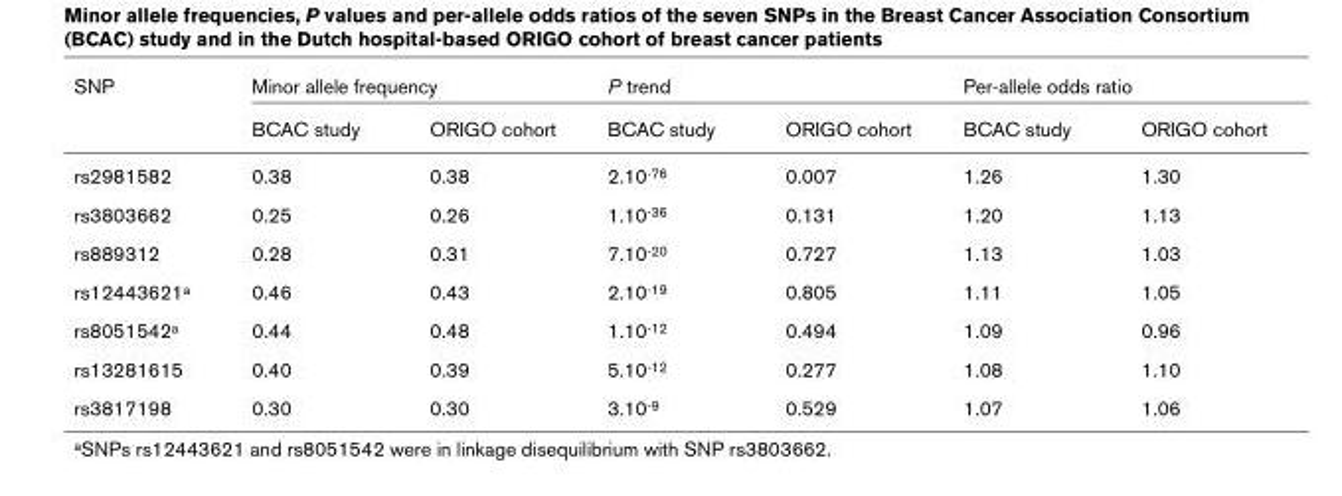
<table><thead><tr><td rowspan="2">SNP</td><td colspan="2">Minor allele frequency</td><td colspan="2">P trend</td><td colspan="2">Per-allele odds ratio</td></tr><tr><td>BCAC study</td><td>ORIGO cohort</td><td>BCAC study</td><td>ORIGO cohort</td><td>BCAC study</td><td>ORIGO cohort</td></tr></thead><tbody><tr><td>rs2981582</td><td>0.38</td><td>0.38</td><td>2.10<sup>-76</sup></td><td>0.007</td><td>1.26</td><td>1.30</td></tr><tr><td>rs3803662</td><td>0.25</td><td>0.26</td><td>1.10<sup>-36</sup></td><td>0.131</td><td>1.20</td><td>1.13</td></tr><tr><td>rs889312</td><td>0.28</td><td>0.31</td><td>7.10<sup>-20</sup></td><td>0.727</td><td>1.13</td><td>1.03</td></tr><tr><td>rs12443621<sup>a</sup></td><td>0.46</td><td>0.43</td><td>2.10<sup>-19</sup></td><td>0.805</td><td>1.11</td><td>1.05</td></tr><tr><td>rs8051542<sup>a</sup></td><td>0.44</td><td>0.48</td><td>1.10<sup>-12</sup></td><td>0.494</td><td>1.09</td><td>0.96</td></tr><tr><td>rs13281615</td><td>0.40</td><td>0.39</td><td>5.10<sup>-12</sup></td><td>0.277</td><td>1.08</td><td>1.10</td></tr><tr><td>rs3817198</td><td>0.30</td><td>0.30</td><td>3.10<sup>-9</sup></td><td>0.529</td><td>1.07</td><td>1.06</td></tr></tbody></table>